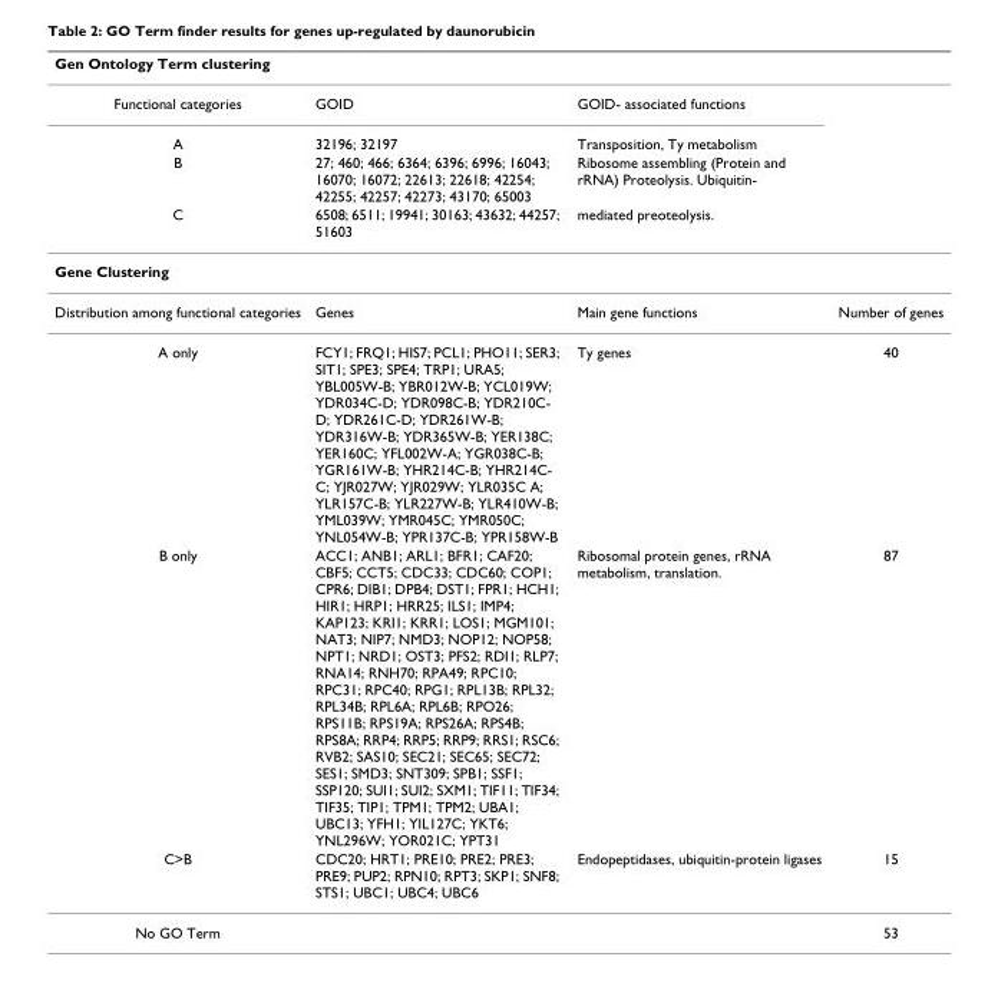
<table><thead><tr><td colspan="4">Gen Ontology Term clustering</td></tr><tr><td>Functional categories</td><td>GOID</td><td>GOID- associated functions</td><td></td></tr></thead><tbody><tr><td>A</td><td>32196; 32197</td><td>Transposition, Ty metabolism</td><td></td></tr><tr><td>B</td><td>27; 460; 466; 6364; 6396; 6996; 16043; 16070; 16072; 22613; 22618; 42254; 42255; 42257; 42273; 43170; 65003</td><td>Ribosome assembling (Protein and rRNA) Proteolysis. Ubiquitin-</td><td></td></tr><tr><td>C</td><td>6508; 6511; 19941; 30163; 43632; 44257; 51603</td><td>mediated preoteolysis.</td><td></td></tr><tr><td colspan="4">Gene Clustering</td></tr><tr><td>Distribution among functional categories</td><td>Genes</td><td>Main gene functions</td><td>Number of genes</td></tr><tr><td>A only</td><td>FCY1; FRQ1; HIS7; PCL1; PHO11; SER3; SIT1; SPE3; SPE4; TRP1; URA5; YBL005W-B; YBR012W-B; YCL019W; YDR034C-D; YDR098C-B; YDR210C- D; YDR261C-D; YDR261W-B; YDR316W-B; YDR365W-B; YER138C; YER160C; YFL002W-A; YGR038C-B; YGR161W-B; YHR214C-B; YHR214C- C; YJR027W; YJR029W; YLR035C A; YLR157C-B; YLR227W-B; YLR410W-B; YML039W; YMR045C; YMR050C; YNL054W-B; YPR137C-B; YPR158W-B</td><td>Ty genes</td><td>40</td></tr><tr><td>B only</td><td>ACC1; ANB1; ARL1; BFR1; CAF20; CBF5; CCT5; CDC33; CDC60; COP1; CPR6; DIB1; DPB4; DST1; FPR1; HCH1; HIR1; HRP1; HRR25; ILS1; IMP4; KAP123; KRI1; KRR1; LOS1; MGM101; NAT3; NIP7; NMD3; NOP12; NOP58; NPT1; NRD1; OST3; PFS2; RDI1; RLP7; RNA14; RNH70; RPA49; RPC10; RPC31; RPC40; RPG1; RPL13B; RPL32; RPL34B; RPL6A; RPL6B; RPO26; RPS11B; RPS19A; RPS26A; RPS4B; RPS8A; RRP4; RRP5; RRP9; RRS1; RSC6; RVB2; SAS10; SEC21; SEC65; SEC72; SES1; SMD3; SNT309; SPB1; SSF1; SSP120; SUI1; SUI2; SXM1; TIF11; TIF34; TIF35; TIP1; TPM1; TPM2; UBA1; UBC13; YFH1; YIL127C; YKT6; YNL296W; YOR021C; YPT31</td><td>Ribosomal protein genes, rRNA metabolism, translation.</td><td>87</td></tr><tr><td>C&gt;B</td><td>CDC20; HRT1; PRE10; PRE2; PRE3; PRE9; PUP2; RPN10; RPT3; SKP1; SNF8; STS1; UBC1; UBC4; UBC6</td><td>Endopeptidases, ubiquitin-protein ligases</td><td>15</td></tr><tr><td>No GO Term</td><td></td><td></td><td>53</td></tr></tbody></table>